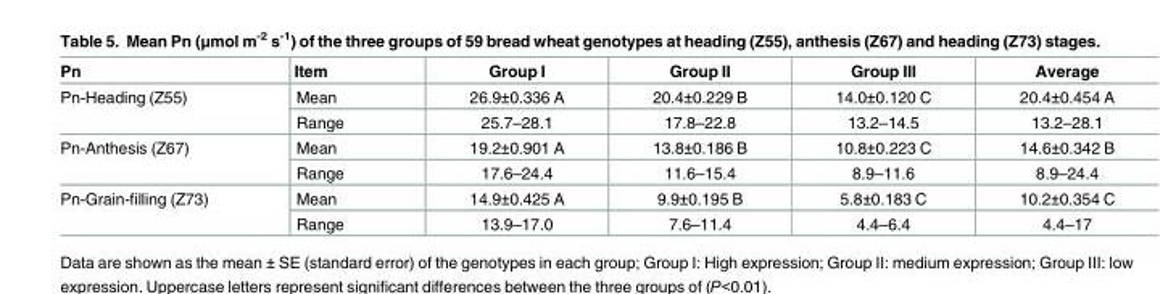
<table><thead><tr><td>Pn</td><td>Item</td><td>Group I</td><td>Group II</td><td>Group III</td><td>Average</td></tr></thead><tbody><tr><td rowspan="2">Pn-Heading (Z55)</td><td>Mean</td><td>26.9±0.336 A</td><td>20.4±0.229 B</td><td>14.0±0.120 C</td><td>20.4±0.454 A</td></tr><tr><td>Range</td><td>25.7–28.1</td><td>17.8–22.8</td><td>13.2–14.5</td><td>13.2–28.1</td></tr><tr><td rowspan="2">Pn-Anthesis (Z67)</td><td>Mean</td><td>19.2±0.901 A</td><td>13.8±0.186 B</td><td>10.8±0.223 C</td><td>14.6±0.342 B</td></tr><tr><td>Range</td><td>17.6–24.4</td><td>11.6–15.4</td><td>8.9–11.6</td><td>8.9–24.4</td></tr><tr><td rowspan="2">Pn-Grain-filling (Z73)</td><td>Mean</td><td>14.9±0.425 A</td><td>9.9±0.195 B</td><td>5.8±0.183 C</td><td>10.2±0.354 C</td></tr><tr><td>Range</td><td>13.9–17.0</td><td>7.6–11.4</td><td>4.4–6.4</td><td>4.4–17</td></tr></tbody></table>